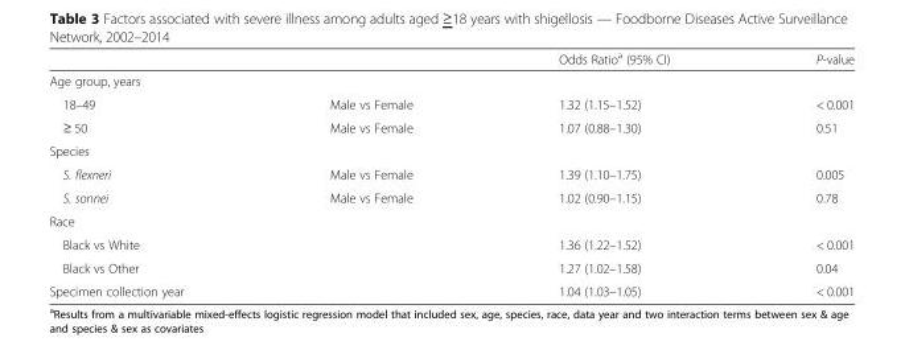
<table><thead><tr><td></td><td></td><td>Odds Ratio<sup>a</sup> (95% CI)</td><td>P-value</td></tr></thead><tbody><tr><td colspan="4">Age group, years</td></tr><tr><td>18–49</td><td>Male vs Female</td><td>1.32 (1.15–1.52)</td><td>&lt; 0.001</td></tr><tr><td>≥ 50</td><td>Male vs Female</td><td>1.07 (0.88–1.30)</td><td>0.51</td></tr><tr><td colspan="4">Species</td></tr><tr><td>S. flexneri</td><td>Male vs Female</td><td>1.39 (1.10–1.75)</td><td>0.005</td></tr><tr><td>S. sonnei</td><td>Male vs Female</td><td>1.02 (0.90–1.15)</td><td>0.78</td></tr><tr><td colspan="4">Race</td></tr><tr><td>Black vs White</td><td></td><td>1.36 (1.22–1.52)</td><td>&lt; 0.001</td></tr><tr><td>Black vs Other</td><td></td><td>1.27 (1.02–1.58)</td><td>0.04</td></tr><tr><td>Specimen collection year</td><td></td><td>1.04 (1.03–1.05)</td><td>&lt; 0.001</td></tr></tbody></table>